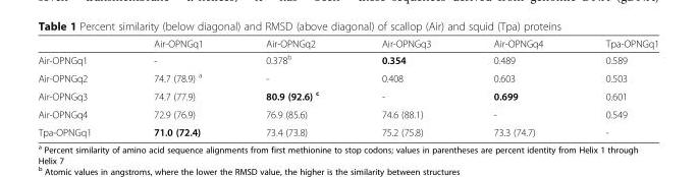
<table><thead><tr><td></td><td>Air-OPNGq1</td><td>Air-OPNGq2</td><td>Air-OPNGq3</td><td>Air-OPNGq4</td><td>Tpa-OPNGq1</td></tr></thead><tbody><tr><td>Air-OPNGq1</td><td>-</td><td>0.378<sup>b</sup></td><td>0.354</td><td>0.489</td><td>0.589</td></tr><tr><td>Air-OPNGq2</td><td>74.7 (78.9) <sup>a</sup></td><td>-</td><td>0.408</td><td>0.603</td><td>0.503</td></tr><tr><td>Air-OPNGq3</td><td>74.7 (77.9)</td><td>80.9 (92.6) <sup>c</sup></td><td>-</td><td>0.699</td><td>0.601</td></tr><tr><td>Air-OPNGq4</td><td>72.9 (76.9)</td><td>76.9 (85.6)</td><td>74.6 (88.1)</td><td>-</td><td>0.549</td></tr><tr><td>Tpa-OPNGq1</td><td>71.0 (72.4)</td><td>73.4 (73.8)</td><td>75.2 (75.8)</td><td>73.3 (74.7)</td><td>-</td></tr></tbody></table>